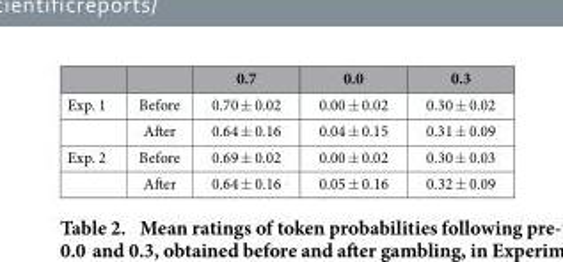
<table><thead><tr><td></td><td></td><td>0.7</td><td>0.0</td><td>0.3</td></tr></thead><tbody><tr><td rowspan="2">Exp. 1</td><td>Before</td><td>0.70 ± 0.02</td><td>0.00 ± 0.02</td><td>0.30 ± 0.02</td></tr><tr><td>After</td><td>0.64 ± 0.16</td><td>0.04 ± 0.15</td><td>0.31 ± 0.09</td></tr><tr><td rowspan="2">Exp. 2</td><td>Before</td><td>0.69 ± 0.02</td><td>0.00 ± 0.02</td><td>0.30 ± 0.03</td></tr><tr><td>After</td><td>0.64 ± 0.16</td><td>0.05 ± 0.16</td><td>0.32 ± 0.09</td></tr></tbody></table>